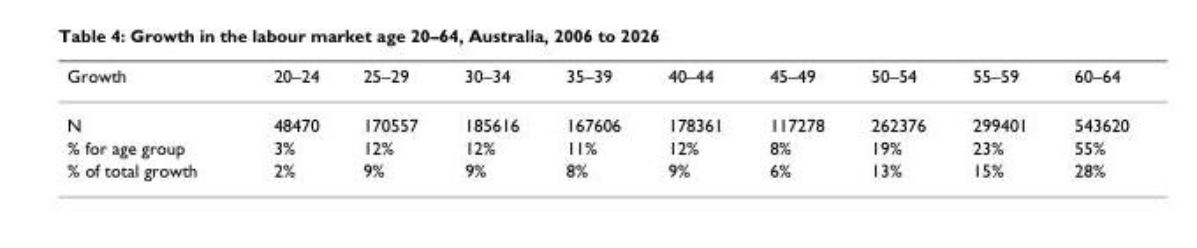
<table><thead><tr><td>Growth</td><td>20–24</td><td>25–29</td><td>30–34</td><td>35–39</td><td>40–44</td><td>45–49</td><td>50–54</td><td>55–59</td><td>60–64</td></tr></thead><tbody><tr><td>N</td><td>48470</td><td>170557</td><td>185616</td><td>167606</td><td>178361</td><td>117278</td><td>262376</td><td>299401</td><td>543620</td></tr><tr><td>% for age group</td><td>3%</td><td>12%</td><td>12%</td><td>11%</td><td>12%</td><td>8%</td><td>19%</td><td>23%</td><td>55%</td></tr><tr><td>% of total growth</td><td>2%</td><td>9%</td><td>9%</td><td>8%</td><td>9%</td><td>6%</td><td>13%</td><td>15%</td><td>28%</td></tr></tbody></table>